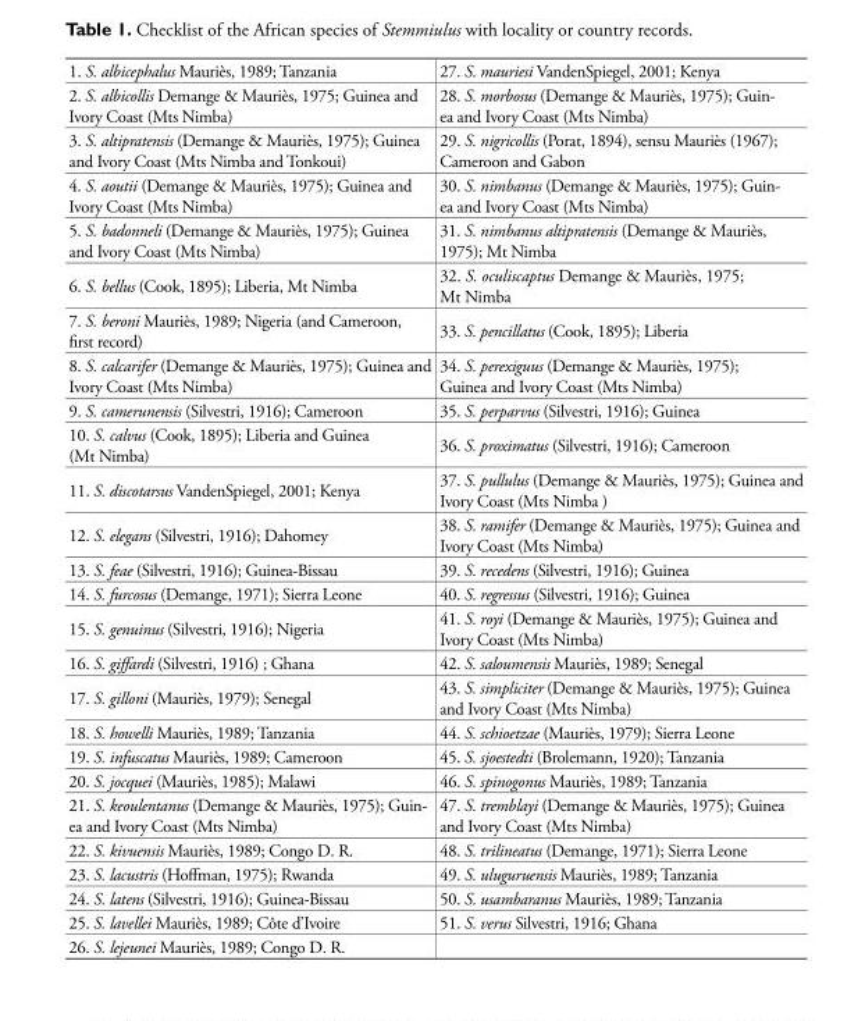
<table><tbody><tr><td>1. S. albicephalus Mauriès, 1989; Tanzania</td><td>27. S. mauriesi VandenSpiegel, 2001; Kenya</td></tr><tr><td>2. S. albicollis Demange &amp; Mauriès, 1975; Guinea and Ivory Coast (Mts Nimba)</td><td>28. S. morbosus (Demange &amp; Mauriès, 1975); Guin- ea and Ivory Coast (Mts Nimba)</td></tr><tr><td>3. S. altipratensis (Demange &amp; Mauriès, 1975); Guinea and Ivory Coast (Mts Nimba and Tonkoui)</td><td>29. S. nigricollis (Porat, 1894), sensu Mauriès (1967); Cameroon and Gabon</td></tr><tr><td>4. S. aoutii (Demange &amp; Mauriès, 1975); Guinea and Ivory Coast (Mts Nimba)</td><td>30. S. nimbanus (Demange &amp; Mauriès, 1975); Guin- ea and Ivory Coast (Mts Nimba)</td></tr><tr><td>5. S. badonneli (Demange &amp; Mauriès, 1975); Guinea and Ivory Coast (Mts Nimba)</td><td>31. S. nimbanus altipratensis (Demange &amp; Mauriès, 1975); Mt Nimba</td></tr><tr><td>6. S. bellus (Cook, 1895); Liberia, Mt Nimba</td><td>32. S. oculiscaptus Demange &amp; Mauriès, 1975; Mt Nimba</td></tr><tr><td>7. S. beroni Mauriès, 1989; Nigeria (and Cameroon, first record)</td><td>33. S. pencillatus (Cook, 1895); Liberia</td></tr><tr><td>8. S. calcarifer (Demange &amp; Mauriès, 1975); Guinea and Ivory Coast (Mts Nimba)</td><td>34. S. perexiguus (Demange &amp; Mauriès, 1975); Guinea and Ivory Coast (Mts Nimba)</td></tr><tr><td>9. S. camerunensis (Silvestri, 1916); Cameroon</td><td>35. S. perparvus (Silvestri, 1916); Guinea</td></tr><tr><td>10. S. calvus (Cook, 1895); Liberia and Guinea (Mt Nimba)</td><td>36. S. proximatus (Silvestri, 1916); Cameroon</td></tr><tr><td>11. S. discotarsus VandenSpiegel, 2001; Kenya</td><td>37. S. pullulus (Demange &amp; Mauriès, 1975); Guinea and Ivory Coast (Mts Nimba )</td></tr><tr><td>12. S. elegans (Silvestri, 1916); Dahomey</td><td>38. S. ramifer (Demange &amp; Mauriès, 1975); Guinea and Ivory Coast (Mts Nimba)</td></tr><tr><td>13. S. feae (Silvestri, 1916); Guinea-Bissau</td><td>39. S. recedens (Silvestri, 1916); Guinea</td></tr><tr><td>14. S. furcosus (Demange, 1971); Sierra Leone</td><td>40. S. regressus (Silvestri, 1916); Guinea</td></tr><tr><td>15. S. genuinus (Silvestri, 1916); Nigeria</td><td>41. S. royi (Demange &amp; Mauriès, 1975); Guinea and Ivory Coast (Mts Nimba)</td></tr><tr><td>16. S. giffardi (Silvestri, 1916) ; Ghana</td><td>42. S. saloumensis Mauriès, 1989; Senegal</td></tr><tr><td>17. S. gilloni (Mauriès, 1979); Senegal</td><td>43. S. simpliciter (Demange &amp; Mauriès, 1975); Guinea and Ivory Coast (Mts Nimba)</td></tr><tr><td>18. S. howelli Mauriès, 1989; Tanzania</td><td>44. S. schioetzae (Mauriès, 1979); Sierra Leone</td></tr><tr><td>19. S. infuscatus Mauriès, 1989; Cameroon</td><td>45. S. sjoestedti (Brolemann, 1920); Tanzania</td></tr><tr><td>20. S. jocquei (Mauriès, 1985); Malawi</td><td>46. S. spinogonus Mauriès, 1989; Tanzania</td></tr><tr><td>21. S. keoulentanus (Demange &amp; Mauriès, 1975); Guin- ea and Ivory Coast (Mts Nimba)</td><td>47. S. tremblayi (Demange &amp; Mauriès, 1975); Guinea and Ivory Coast (Mts Nimba)</td></tr><tr><td>22. S. kivuensis Mauriès, 1989; Congo D. R.</td><td>48. S. trilineatus (Demange, 1971); Sierra Leone</td></tr><tr><td>23. S. lacustris (Hoffman, 1975); Rwanda</td><td>49. S. uluguruensis Mauriès, 1989; Tanzania</td></tr><tr><td>24. S. latens (Silvestri, 1916); Guinea-Bissau</td><td>50. S. usambaranus Mauriès, 1989; Tanzania</td></tr><tr><td>25. S. lavellei Mauriès, 1989; Côte d’Ivoire</td><td>51. S. verus Silvestri, 1916; Ghana</td></tr><tr><td>26. S. lejeunei Mauriès, 1989; Congo D. R.</td><td></td></tr></tbody></table>